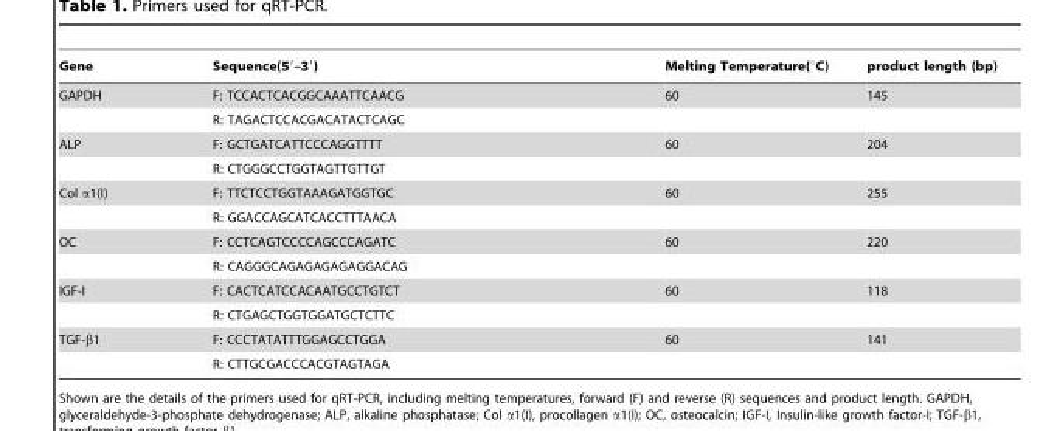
<table><thead><tr><td>Gene</td><td>Sequence(5′–3′)</td><td>Melting Temperature(°C)</td><td>product length (bp)</td></tr></thead><tbody><tr><td rowspan="2">GAPDH</td><td>F: TCCACTCACGGCAAATTCAACG</td><td>60</td><td>145</td></tr><tr><td>R: TAGACTCCACGACATACTCAGC</td><td></td><td></td></tr><tr><td rowspan="2">ALP</td><td>F: GCTGATCATTCCCAGGTTTT</td><td>60</td><td>204</td></tr><tr><td>R: CTGGGCCTGGTAGTTGTTGT</td><td></td><td></td></tr><tr><td rowspan="2">Col α1(I)</td><td>F: TTCTCCTGGTAAAGATGGTGC</td><td>60</td><td>255</td></tr><tr><td>R: GGACCAGCATCACCTTTAACA</td><td></td><td></td></tr><tr><td rowspan="2">OC</td><td>F: CCTCAGTCCCCAGCCCAGATC</td><td>60</td><td>220</td></tr><tr><td>R: CAGGGCAGAGAGAGAGGACAG</td><td></td><td></td></tr><tr><td rowspan="2">IGF-I</td><td>F: CACTCATCCACAATGCCTGTCT</td><td>60</td><td>118</td></tr><tr><td>R: CTGAGCTGGTGGATGCTCTTC</td><td></td><td></td></tr><tr><td rowspan="2">TGF-β1</td><td>F: CCCTATATTTGGAGCCTGGA</td><td>60</td><td>141</td></tr><tr><td>R: CTTGCGACCCACGTAGTAGA</td><td></td><td></td></tr></tbody></table>